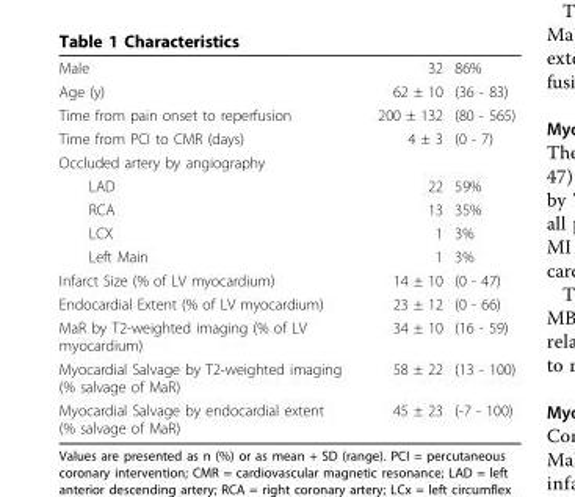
<table><tbody><tr><td>Male</td><td>32</td><td>86%</td></tr><tr><td>Age (y)</td><td>62 ± 10</td><td>(36 - 83)</td></tr><tr><td>Time from pain onset to reperfusion</td><td>200 ± 132</td><td>(80 - 565)</td></tr><tr><td>Time from PCI to CMR (days)</td><td>4 ± 3</td><td>(0 - 7)</td></tr><tr><td colspan="3">Occluded artery by angiography</td></tr><tr><td>LAD</td><td>22</td><td>59%</td></tr><tr><td>RCA</td><td>13</td><td>35%</td></tr><tr><td>LCX</td><td>1</td><td>3%</td></tr><tr><td>Left Main</td><td>1</td><td>3%</td></tr><tr><td>Infarct Size (% of LV myocardium)</td><td>14 ± 10</td><td>(0 - 47)</td></tr><tr><td>Endocardial Extent (% of LV myocardium)</td><td>23 ± 12</td><td>(0 - 66)</td></tr><tr><td>MaR by T2-weighted imaging (% of LV myocardium)</td><td>34 ± 10</td><td>(16 - 59)</td></tr><tr><td>Myocardial Salvage by T2-weighted imaging (% salvage of MaR)</td><td>58 ± 22</td><td>(13 - 100)</td></tr><tr><td>Myocardial Salvage by endocardial extent (% salvage of MaR)</td><td>45 ± 23</td><td>(-7 - 100)</td></tr></tbody></table>